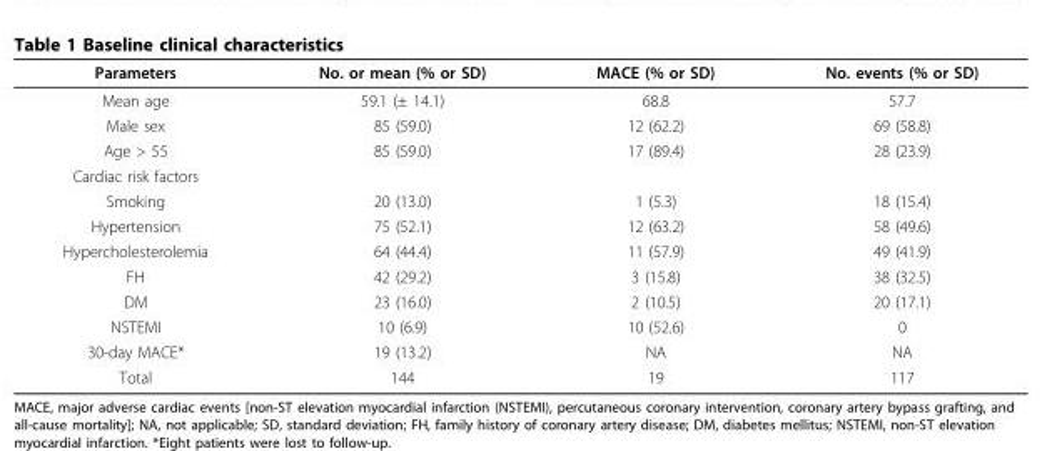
<table><thead><tr><td>Parameters</td><td>No. or mean (% or SD)</td><td>MACE (% or SD)</td><td>No. events (% or SD)</td></tr></thead><tbody><tr><td>Mean age</td><td>59.1 (± 14.1)</td><td>68.8</td><td>57.7</td></tr><tr><td>Male sex</td><td>85 (59.0)</td><td>12 (62.2)</td><td>69 (58.8)</td></tr><tr><td>Age &gt; 55</td><td>85 (59.0)</td><td>17 (89.4)</td><td>28 (23.9)</td></tr><tr><td colspan="4">Cardiac risk factors</td></tr><tr><td>Smoking</td><td>20 (13.0)</td><td>1 (5.3)</td><td>18 (15.4)</td></tr><tr><td>Hypertension</td><td>75 (52.1)</td><td>12 (63.2)</td><td>58 (49.6)</td></tr><tr><td>Hypercholesterolemia</td><td>64 (44.4)</td><td>11 (57.9)</td><td>49 (41.9)</td></tr><tr><td>FH</td><td>42 (29.2)</td><td>3 (15.8)</td><td>38 (32.5)</td></tr><tr><td>DM</td><td>23 (16.0)</td><td>2 (10.5)</td><td>20 (17.1)</td></tr><tr><td>NSTEMI</td><td>10 (6.9)</td><td>10 (52.6)</td><td>0</td></tr><tr><td>30-day MACE*</td><td>19 (13.2)</td><td>NA</td><td>NA</td></tr><tr><td>Total</td><td>144</td><td>19</td><td>117</td></tr></tbody></table>